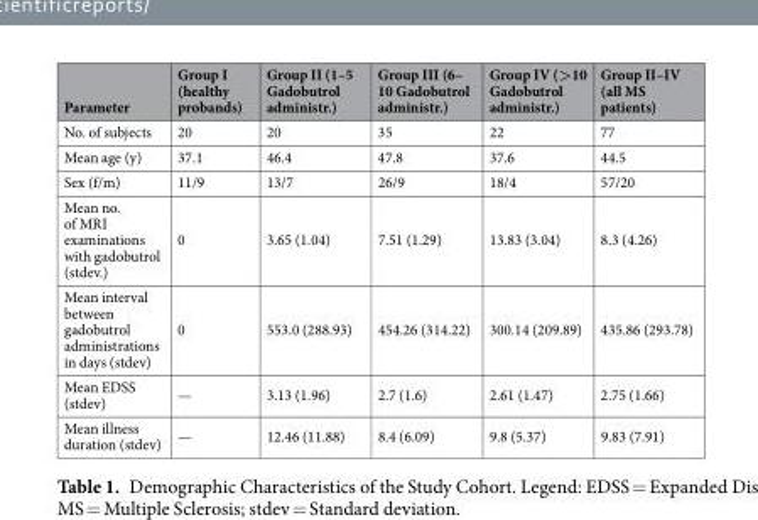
<table><thead><tr><td>Parameter</td><td>Group I (healthy probands)</td><td>Group II (1–5 Gadobutrol administr.)</td><td>Group III (6– 10 Gadobutrol administr.)</td><td>Group IV (&gt;10 Gadobutrol administr.)</td><td>Group II–IV (all MS patients)</td></tr></thead><tbody><tr><td>No. of subjects</td><td>20</td><td>20</td><td>35</td><td>22</td><td>77</td></tr><tr><td>Mean age (y)</td><td>37.1</td><td>46.4</td><td>47.8</td><td>37.6</td><td>44.5</td></tr><tr><td>Sex (f/m)</td><td>11/9</td><td>13/7</td><td>26/9</td><td>18/4</td><td>57/20</td></tr><tr><td>Mean no. of MRI examinations with gadobutrol (stdev.)</td><td>0</td><td>3.65 (1.04)</td><td>7.51 (1.29)</td><td>13.83 (3.04)</td><td>8.3 (4.26)</td></tr><tr><td>Mean interval between gadobutrol administrations in days (stdev)</td><td>0</td><td>553.0 (288.93)</td><td>454.26 (314.22)</td><td>300.14 (209.89)</td><td>435.86 (293.78)</td></tr><tr><td>Mean EDSS (stdev)</td><td>—</td><td>3.13 (1.96)</td><td>2.7 (1.6)</td><td>2.61 (1.47)</td><td>2.75 (1.66)</td></tr><tr><td>Mean illness duration (stdev)</td><td>—</td><td>12.46 (11.88)</td><td>8.4 (6.09)</td><td>9.8 (5.37)</td><td>9.83 (7.91)</td></tr></tbody></table>